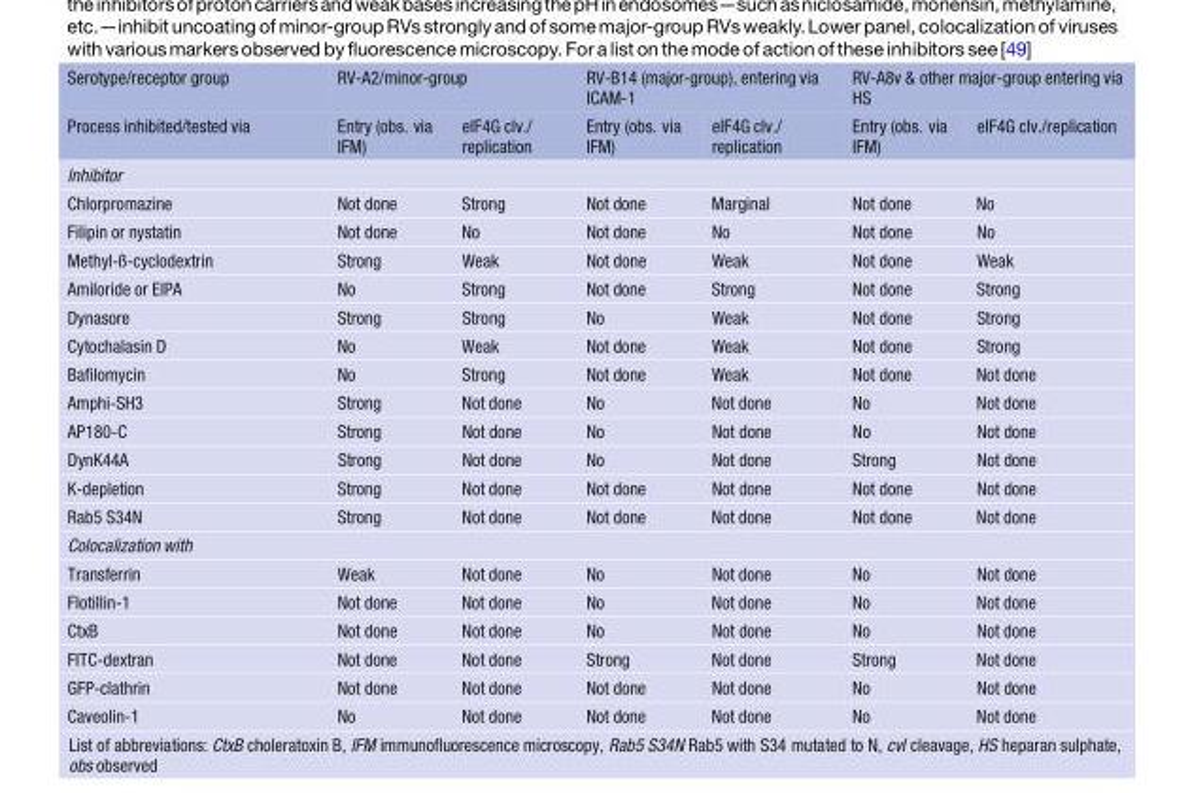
<table><thead><tr><td rowspan="2">Serotype/receptor group Process inhibited/tested via</td><td colspan="2">RV-A2/minor-group</td><td colspan="2">RV-B14 (major-group), entering via ICAM-1</td><td colspan="2">RV-A8v &amp; other major-group entering via HS</td></tr><tr><td>Entry (obs. via IFM)</td><td>eIF4G clv./ replication</td><td>Entry (obs. via IFM)</td><td>eIF4G clv./ replication</td><td>Entry (obs. via IFM)</td><td>eIF4G clv./replication</td></tr></thead><tbody><tr><td colspan="7">Inhibitor</td></tr><tr><td>Chlorpromazine</td><td>Not done</td><td>Strong</td><td>Not done</td><td>Marginal</td><td>Not done</td><td>No</td></tr><tr><td>Filipin or nystatin</td><td>Not done</td><td>No</td><td>Not done</td><td>No</td><td>Not done</td><td>No</td></tr><tr><td>Methyl-ß-cyclodextrin</td><td>Strong</td><td>Weak</td><td>Not done</td><td>Weak</td><td>Not done</td><td>Weak</td></tr><tr><td>Amiloride or EIPA</td><td>No</td><td>Strong</td><td>Not done</td><td>Strong</td><td>Not done</td><td>Strong</td></tr><tr><td>Dynasore</td><td>Strong</td><td>Strong</td><td>No</td><td>Weak</td><td>Not done</td><td>Strong</td></tr><tr><td>Cytochalasin D</td><td>No</td><td>Weak</td><td>Not done</td><td>Weak</td><td>Not done</td><td>Strong</td></tr><tr><td>Bafilomycin</td><td>No</td><td>Strong</td><td>Not done</td><td>Weak</td><td>Not done</td><td>Not done</td></tr><tr><td>Amphi-SH3</td><td>Strong</td><td>Not done</td><td>No</td><td>Not done</td><td>No</td><td>Not done</td></tr><tr><td>AP180-C</td><td>Strong</td><td>Not done</td><td>No</td><td>Not done</td><td>No</td><td>Not done</td></tr><tr><td>DynK44A</td><td>Strong</td><td>Not done</td><td>No</td><td>Not done</td><td>Strong</td><td>Not done</td></tr><tr><td>K-depletion</td><td>Strong</td><td>Not done</td><td>Not done</td><td>Not done</td><td>Not done</td><td>Not done</td></tr><tr><td>Rab5 S34N</td><td>Strong</td><td>Not done</td><td>Not done</td><td>Not done</td><td>Not done</td><td>Not done</td></tr><tr><td colspan="7">Colocalization with</td></tr><tr><td>Transferrin</td><td>Weak</td><td>Not done</td><td>No</td><td>Not done</td><td>No</td><td>Not done</td></tr><tr><td>Flotillin-1</td><td>Not done</td><td>Not done</td><td>No</td><td>Not done</td><td>No</td><td>Not done</td></tr><tr><td>CtxB</td><td>Not done</td><td>Not done</td><td>No</td><td>Not done</td><td>No</td><td>Not done</td></tr><tr><td>FITC-dextran</td><td>Not done</td><td>Not done</td><td>Strong</td><td>Not done</td><td>Strong</td><td>Not done</td></tr><tr><td>GFP-clathrin</td><td>Not done</td><td>Not done</td><td>Not done</td><td>Not done</td><td>No</td><td>Not done</td></tr><tr><td>Caveolin-1</td><td>No</td><td>Not done</td><td>Not done</td><td>Not done</td><td>No</td><td>Not done</td></tr></tbody></table>